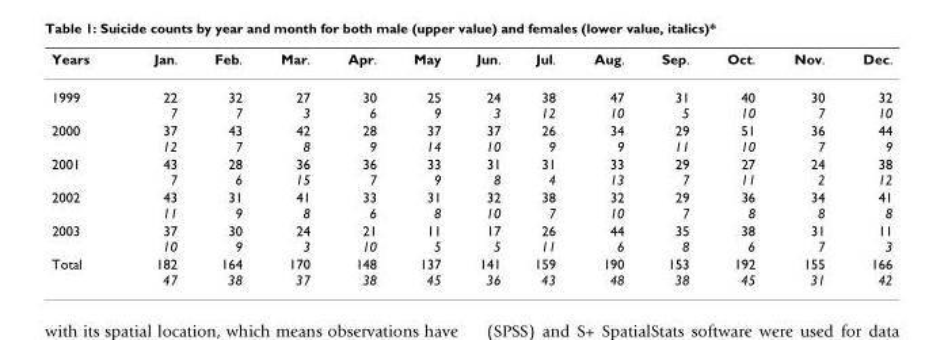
<table><thead><tr><td>Years</td><td>Jan.</td><td>Feb.</td><td>Mar.</td><td>Apr.</td><td>May</td><td>Jun.</td><td>Jul.</td><td>Aug.</td><td>Sep.</td><td>Oct.</td><td>Nov.</td><td>Dec.</td></tr></thead><tbody><tr><td>1999</td><td>22 7</td><td>32 7</td><td>27 3</td><td>30 6</td><td>25 9</td><td>24 3</td><td>38 12</td><td>47 10</td><td>31 5</td><td>40 10</td><td>30 7</td><td>32 10</td></tr><tr><td>2000</td><td>37 12</td><td>43 7</td><td>42 8</td><td>28 9</td><td>37 14</td><td>37 10</td><td>26 9</td><td>34 9</td><td>29 11</td><td>51 10</td><td>36 7</td><td>44 9</td></tr><tr><td>2001</td><td>43 7</td><td>28 6</td><td>36 15</td><td>36 7</td><td>33 9</td><td>31 8</td><td>31 4</td><td>33 13</td><td>29 7</td><td>27 11</td><td>24 2</td><td>38 12</td></tr><tr><td>2002</td><td>43 11</td><td>31 9</td><td>41 8</td><td>33 6</td><td>31 8</td><td>32 10</td><td>38 7</td><td>32 10</td><td>29 7</td><td>36 8</td><td>34 8</td><td>41 8</td></tr><tr><td>2003</td><td>37 10</td><td>30 9</td><td>24 3</td><td>21 10</td><td>11 5</td><td>17 5</td><td>26 11</td><td>44 6</td><td>35 8</td><td>38 6</td><td>31 7</td><td>11 3</td></tr><tr><td>Total</td><td>182 47</td><td>164 38</td><td>170 37</td><td>148 38</td><td>137 45</td><td>141 36</td><td>159 43</td><td>190 48</td><td>153 38</td><td>192 45</td><td>155 31</td><td>166 42</td></tr></tbody></table>